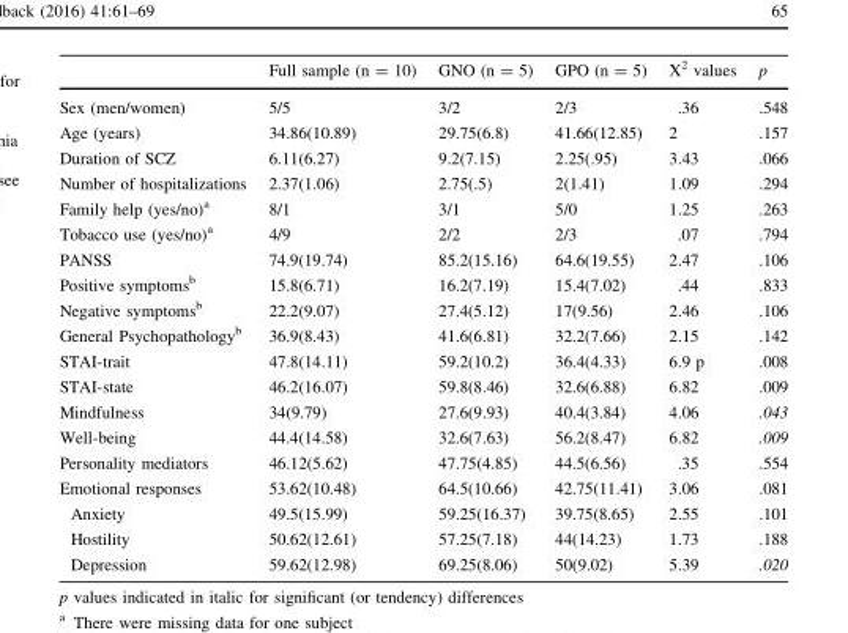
<table><thead><tr><td></td><td>Full sample (n = 10)</td><td>GNO (n = 5)</td><td>GPO (n = 5)</td><td>Χ<sup>2</sup> values</td><td>p</td></tr></thead><tbody><tr><td>Sex (men/women)</td><td>5/5</td><td>3/2</td><td>2/3</td><td>.36</td><td>.548</td></tr><tr><td>Age (years)</td><td>34.86(10.89)</td><td>29.75(6.8)</td><td>41.66(12.85)</td><td>2</td><td>.157</td></tr><tr><td>Duration of SCZ</td><td>6.11(6.27)</td><td>9.2(7.15)</td><td>2.25(.95)</td><td>3.43</td><td>.066</td></tr><tr><td>Number of hospitalizations</td><td>2.37(1.06)</td><td>2.75(.5)</td><td>2(1.41)</td><td>1.09</td><td>.294</td></tr><tr><td>Family help (yes/no)<sup>a</sup></td><td>8/1</td><td>3/1</td><td>5/0</td><td>1.25</td><td>.263</td></tr><tr><td>Tobacco use (yes/no)<sup>a</sup></td><td>4/9</td><td>2/2</td><td>2/3</td><td>.07</td><td>.794</td></tr><tr><td>PANSS</td><td>74.9(19.74)</td><td>85.2(15.16)</td><td>64.6(19.55)</td><td>2.47</td><td>.106</td></tr><tr><td>Positive symptoms<sup>b</sup></td><td>15.8(6.71)</td><td>16.2(7.19)</td><td>15.4(7.02)</td><td>.44</td><td>.833</td></tr><tr><td>Negative symptoms<sup>b</sup></td><td>22.2(9.07)</td><td>27.4(5.12)</td><td>17(9.56)</td><td>2.46</td><td>.106</td></tr><tr><td>General Psychopathology<sup>b</sup></td><td>36.9(8.43)</td><td>41.6(6.81)</td><td>32.2(7.66)</td><td>2.15</td><td>.142</td></tr><tr><td>STAI-trait</td><td>47.8(14.11)</td><td>59.2(10.2)</td><td>36.4(4.33)</td><td>6.9 p</td><td>.008</td></tr><tr><td>STAI-state</td><td>46.2(16.07)</td><td>59.8(8.46)</td><td>32.6(6.88)</td><td>6.82</td><td>.009</td></tr><tr><td>Mindfulness</td><td>34(9.79)</td><td>27.6(9.93)</td><td>40.4(3.84)</td><td>4.06</td><td>.043</td></tr><tr><td>Well-being</td><td>44.4(14.58)</td><td>32.6(7.63)</td><td>56.2(8.47)</td><td>6.82</td><td>.009</td></tr><tr><td>Personality mediators</td><td>46.12(5.62)</td><td>47.75(4.85)</td><td>44.5(6.56)</td><td>.35</td><td>.554</td></tr><tr><td>Emotional responses</td><td>53.62(10.48)</td><td>64.5(10.66)</td><td>42.75(11.41)</td><td>3.06</td><td>.081</td></tr><tr><td>Anxiety</td><td>49.5(15.99)</td><td>59.25(16.37)</td><td>39.75(8.65)</td><td>2.55</td><td>.101</td></tr><tr><td>Hostility</td><td>50.62(12.61)</td><td>57.25(7.18)</td><td>44(14.23)</td><td>1.73</td><td>.188</td></tr><tr><td>Depression</td><td>59.62(12.98)</td><td>69.25(8.06)</td><td>50(9.02)</td><td>5.39</td><td>.020</td></tr></tbody></table>